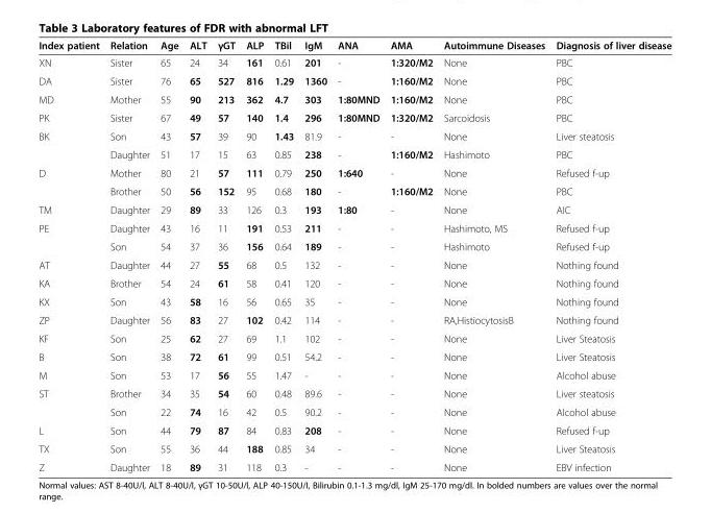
<table><thead><tr><td>Index patient</td><td>Relation</td><td>Age</td><td>ALT</td><td>γGT</td><td>ALP</td><td>TBil</td><td>IgM</td><td>ANA</td><td>AMA</td><td>Autoimmune Diseases</td><td>Diagnosis of liver disease</td></tr></thead><tbody><tr><td>XN</td><td>Sister</td><td>65</td><td>24</td><td>34</td><td>161</td><td>0.61</td><td>201</td><td>-</td><td>1:320/M2</td><td>None</td><td>PBC</td></tr><tr><td>DA</td><td>Sister</td><td>76</td><td>65</td><td>527</td><td>816</td><td>1.29</td><td>1360</td><td>-</td><td>1:160/M2</td><td>None</td><td>PBC</td></tr><tr><td>MD</td><td>Mother</td><td>55</td><td>90</td><td>213</td><td>362</td><td>4.7</td><td>303</td><td>1:80MND</td><td>1:160/M2</td><td>None</td><td>PBC</td></tr><tr><td>PK</td><td>Sister</td><td>67</td><td>49</td><td>57</td><td>140</td><td>1.4</td><td>296</td><td>1:80MND</td><td>1:320/M2</td><td>Sarcoidosis</td><td>PBC</td></tr><tr><td rowspan="2">BK</td><td>Son</td><td>43</td><td>57</td><td>39</td><td>90</td><td>1.43</td><td>81.9</td><td>-</td><td>-</td><td>None</td><td>Liver steatosis</td></tr><tr><td>Daughter</td><td>51</td><td>17</td><td>15</td><td>63</td><td>0.85</td><td>238</td><td>-</td><td>1:160/M2</td><td>Hashimoto</td><td>PBC</td></tr><tr><td rowspan="2">D</td><td>Mother</td><td>80</td><td>21</td><td>57</td><td>111</td><td>0.79</td><td>250</td><td>1:640</td><td>-</td><td>None</td><td>Refused f-up</td></tr><tr><td>Brother</td><td>50</td><td>56</td><td>152</td><td>95</td><td>0.68</td><td>180</td><td>-</td><td>1:160/M2</td><td>None</td><td>PBC</td></tr><tr><td>TM</td><td>Daughter</td><td>29</td><td>89</td><td>33</td><td>126</td><td>0.3</td><td>193</td><td>1:80</td><td>-</td><td>None</td><td>AIC</td></tr><tr><td rowspan="2">PE</td><td>Daughter</td><td>43</td><td>16</td><td>11</td><td>191</td><td>0.53</td><td>211</td><td>-</td><td>-</td><td>Hashimoto, MS</td><td>Refused f-up</td></tr><tr><td>Son</td><td>54</td><td>37</td><td>36</td><td>156</td><td>0.64</td><td>189</td><td>-</td><td>-</td><td>Hashimoto</td><td>Refused f-up</td></tr><tr><td>AT</td><td>Daughter</td><td>44</td><td>27</td><td>55</td><td>68</td><td>0.5</td><td>132</td><td>-</td><td>-</td><td>None</td><td>Nothing found</td></tr><tr><td>KA</td><td>Brother</td><td>54</td><td>24</td><td>61</td><td>58</td><td>0.41</td><td>120</td><td>-</td><td>-</td><td>None</td><td>Nothing found</td></tr><tr><td>KX</td><td>Son</td><td>43</td><td>58</td><td>16</td><td>56</td><td>0.65</td><td>35</td><td>-</td><td>-</td><td>None</td><td>Nothing found</td></tr><tr><td>ZP</td><td>Daughter</td><td>56</td><td>83</td><td>27</td><td>102</td><td>0.42</td><td>114</td><td>-</td><td>-</td><td>RA,HistiocytosisB</td><td>Nothing found</td></tr><tr><td>KF</td><td>Son</td><td>25</td><td>62</td><td>27</td><td>69</td><td>1.1</td><td>102</td><td>-</td><td>-</td><td>None</td><td>Liver Steatosis</td></tr><tr><td>B</td><td>Son</td><td>38</td><td>72</td><td>61</td><td>99</td><td>0.51</td><td>54.2</td><td>-</td><td>-</td><td>None</td><td>Liver Steatosis</td></tr><tr><td>M</td><td>Son</td><td>53</td><td>17</td><td>56</td><td>55</td><td>1.47</td><td>-</td><td>-</td><td>-</td><td>None</td><td>Alcohol abuse</td></tr><tr><td rowspan="2">ST</td><td>Brother</td><td>34</td><td>35</td><td>54</td><td>60</td><td>0.48</td><td>89.6</td><td>-</td><td>-</td><td>None</td><td>Liver steatosis</td></tr><tr><td>Son</td><td>22</td><td>74</td><td>16</td><td>42</td><td>0.5</td><td>90.2</td><td>-</td><td>-</td><td>None</td><td>Alcohol abuse</td></tr><tr><td>L</td><td>Son</td><td>44</td><td>79</td><td>87</td><td>84</td><td>0.83</td><td>208</td><td>-</td><td>-</td><td>None</td><td>Refused f-up</td></tr><tr><td>TX</td><td>Son</td><td>55</td><td>36</td><td>44</td><td>188</td><td>0.85</td><td>34</td><td>-</td><td>-</td><td>None</td><td>Liver Steatosis</td></tr><tr><td>Z</td><td>Daughter</td><td>18</td><td>89</td><td>31</td><td>118</td><td>0.3</td><td>-</td><td>-</td><td>-</td><td>None</td><td>EBV infection</td></tr></tbody></table>